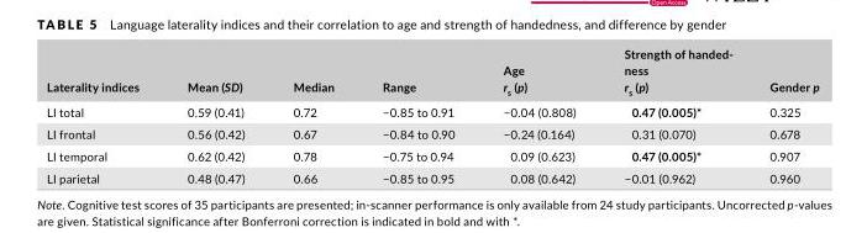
<table><thead><tr><td>Laterality indices</td><td>Mean (SD)</td><td>Median</td><td>Range</td><td>Age r<sub>s</sub> (p)</td><td>Strength of handed- ness rs (p)</td><td>Gender p</td></tr></thead><tbody><tr><td>LI total</td><td>0.59 (0.41)</td><td>0.72</td><td>−0.85 to 0.91</td><td>−0.04 (0.808)</td><td>0.47 (0.005)*</td><td>0.325</td></tr><tr><td>LI frontal</td><td>0.56 (0.42)</td><td>0.67</td><td>−0.84 to 0.90</td><td>−0.24 (0.164)</td><td>0.31 (0.070)</td><td>0.678</td></tr><tr><td>LI temporal</td><td>0.62 (0.42)</td><td>0.78</td><td>−0.75 to 0.94</td><td>0.09 (0.623)</td><td>0.47 (0.005)*</td><td>0.907</td></tr><tr><td>LI parietal</td><td>0.48 (0.47)</td><td>0.66</td><td>−0.85 to 0.95</td><td>0.08 (0.642)</td><td>−0.01 (0.962)</td><td>0.960</td></tr></tbody></table>